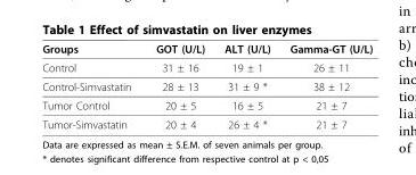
<table><thead><tr><td>Groups</td><td>GOT (U/L)</td><td>ALT (U/L)</td><td>Gamma-GT (U/L)</td></tr></thead><tbody><tr><td>Control</td><td>31 ± 16</td><td>19 ± 1</td><td>26 ± 11</td></tr><tr><td>Control-Simvastatin</td><td>28 ± 13</td><td>31 ± 9 *</td><td>38 ± 12</td></tr><tr><td>Tumor Control</td><td>20 ± 5</td><td>16 ± 5</td><td>21 ± 7</td></tr><tr><td>Tumor-Simvastatin</td><td>20 ± 4</td><td>26 ± 4 *</td><td>21 ± 7</td></tr></tbody></table>